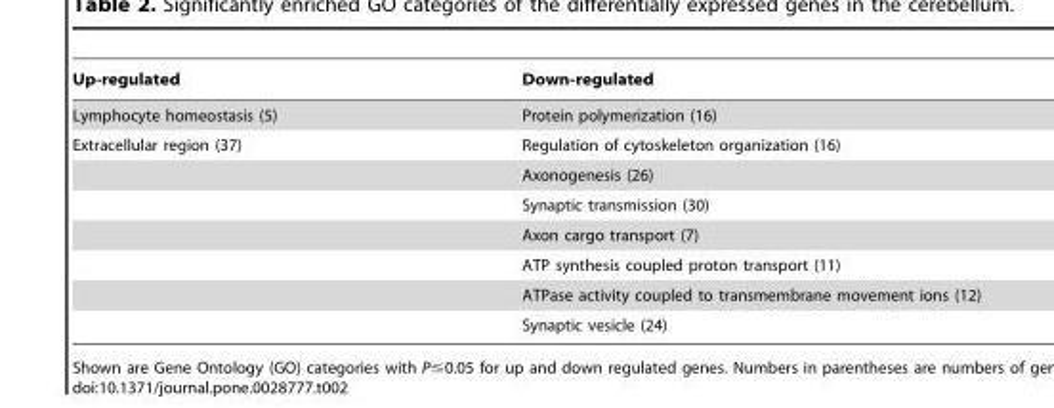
<table><thead><tr><td>Up-regulated</td><td>Down-regulated</td></tr></thead><tbody><tr><td>Lymphocyte homeostasis (5)</td><td>Protein polymerization (16)</td></tr><tr><td rowspan="7">Extracellular region (37)</td><td>Regulation of cytoskeleton organization (16)</td></tr><tr><td>Axonogenesis (26)</td></tr><tr><td>Synaptic transmission (30)</td></tr><tr><td>Axon cargo transport (7)</td></tr><tr><td>ATP synthesis coupled proton transport (11)</td></tr><tr><td>ATPase activity coupled to transmembrane movement ions (12)</td></tr><tr><td>Synaptic vesicle (24)</td></tr></tbody></table>